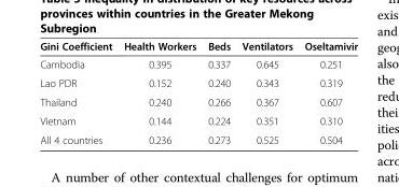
<table><thead><tr><td>Gini Coefficient</td><td>Health Workers</td><td>Beds</td><td>Ventilators</td><td>Oseltamivir</td></tr></thead><tbody><tr><td>Cambodia</td><td>0.395</td><td>0.337</td><td>0.645</td><td>0.251</td></tr><tr><td>Lao PDR</td><td>0.152</td><td>0.240</td><td>0.343</td><td>0.319</td></tr><tr><td>Thailand</td><td>0.240</td><td>0.266</td><td>0.367</td><td>0.607</td></tr><tr><td>Vietnam</td><td>0.144</td><td>0.224</td><td>0.351</td><td>0.310</td></tr><tr><td>All 4 countries</td><td>0.236</td><td>0.273</td><td>0.525</td><td>0.504</td></tr></tbody></table>